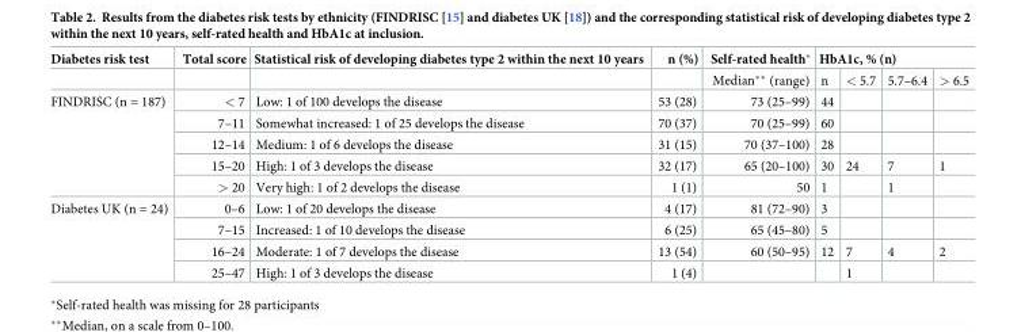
<table><thead><tr><td rowspan="2">Diabetes risk test</td><td rowspan="2">Total score</td><td rowspan="2">Statistical risk of developing diabetes type 2 within the next 10 years</td><td rowspan="2">n (%)</td><td rowspan="2">Self-rated health* Median** (range)</td><td colspan="4">HbA1c, % (n)</td></tr><tr><td>n</td><td>&lt; 5.7</td><td>5.7–6.4</td><td>&gt; 6.5</td></tr></thead><tbody><tr><td rowspan="5">FINDRISC (n = 187)</td><td>&lt; 7</td><td>Low: 1 of 100 develops the disease</td><td>53 (28)</td><td>73 (25–99)</td><td>44</td><td></td><td></td><td></td></tr><tr><td>7–11</td><td>Somewhat increased: 1 of 25 develops the disease</td><td>70 (37)</td><td>70 (25–99)</td><td>60</td><td></td><td></td><td></td></tr><tr><td>12–14</td><td>Medium: 1 of 6 develops the disease</td><td>31 (15)</td><td>70 (37–100)</td><td>28</td><td></td><td></td><td></td></tr><tr><td>15–20</td><td>High: 1 of 3 develops the disease</td><td>32 (17)</td><td>65 (20–100)</td><td>30</td><td>24</td><td>7</td><td>1</td></tr><tr><td>&gt; 20</td><td>Very high: 1 of 2 develops the disease</td><td>1 (1)</td><td>50</td><td>1</td><td></td><td>1</td><td></td></tr><tr><td rowspan="4">Diabetes UK (n = 24)</td><td>0–6</td><td>Low: 1 of 20 develops the disease</td><td>4 (17)</td><td>81 (72–90)</td><td>3</td><td></td><td></td><td></td></tr><tr><td>7–15</td><td>Increased: 1 of 10 develops the disease</td><td>6 (25)</td><td>65 (45–80)</td><td>5</td><td></td><td></td><td></td></tr><tr><td>16–24</td><td>Moderate: 1 of 7 develops the disease</td><td>13 (54)</td><td>60 (50–95)</td><td>12</td><td>7</td><td>4</td><td>2</td></tr><tr><td>25–47</td><td>High: 1 of 3 develops the disease</td><td>1 (4)</td><td></td><td></td><td>1</td><td></td><td></td></tr></tbody></table>